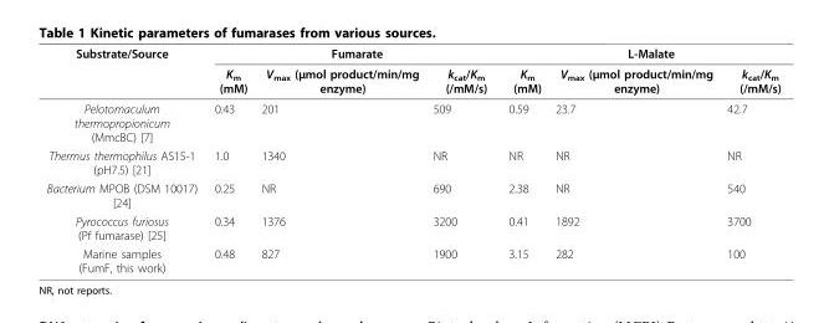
<table><thead><tr><td rowspan="2">Substrate/Source</td><td colspan="3">Fumarate</td><td colspan="3">L-Malate</td></tr><tr><td>K<sub>m</sub> (mM)</td><td>V<sub>max</sub> (μmol product/min/mg enzyme)</td><td>k<sub>cat</sub>/K<sub>m</sub> (/mM/s)</td><td>K<sub>m</sub> (mM)</td><td>V<sub>max</sub> (μmol product/min/mg enzyme)</td><td>k<sub>cat</sub>/K<sub>m</sub> (/mM/s)</td></tr></thead><tbody><tr><td>Pelotomaculum thermopropionicum (MmcBC) [7]</td><td>0.43</td><td>201</td><td>509</td><td>0.59</td><td>23.7</td><td>42.7</td></tr><tr><td>Thermus thermophilus AS15-1 (pH7.5) [21]</td><td>1.0</td><td>1340</td><td>NR</td><td>NR</td><td>NR</td><td>NR</td></tr><tr><td>Bacterium MPOB (DSM 10017) [24]</td><td>0.25</td><td>NR</td><td>690</td><td>2.38</td><td>NR</td><td>540</td></tr><tr><td>Pyrococcus furiosus (Pf fumarase) [25]</td><td>0.34</td><td>1376</td><td>3200</td><td>0.41</td><td>1892</td><td>3700</td></tr><tr><td>Marine samples (FumF, this work)</td><td>0.48</td><td>827</td><td>1900</td><td>3.15</td><td>282</td><td>100</td></tr></tbody></table>